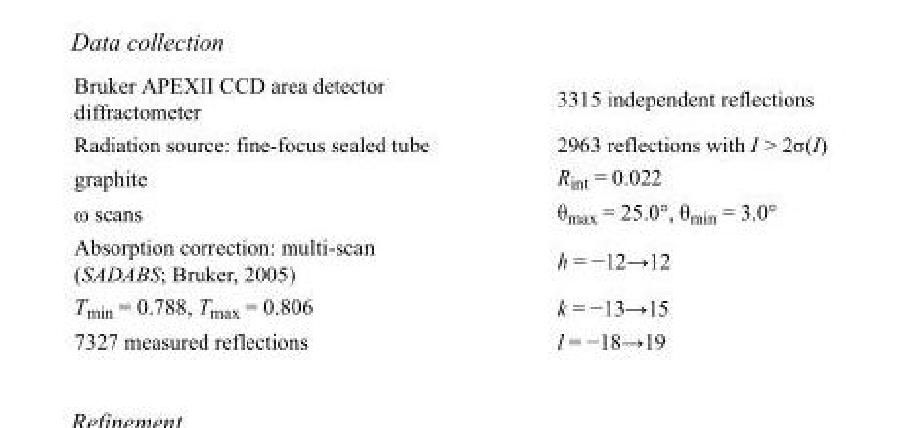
<table><tbody><tr><td>Bruker APEXII CCD area detector diffractometer</td><td>3315 independent reflections</td></tr><tr><td>Radiation source: fine-focus sealed tube</td><td>2963 reflections with I &gt; 2σ(I)</td></tr><tr><td>graphite</td><td>R<sub>int</sub> = 0.022</td></tr><tr><td>ω scans</td><td>θ<sub>max</sub> = 25.0°, θ<sub>min</sub> = 3.0°</td></tr><tr><td>Absorption correction: multi-scan (SADABS; Bruker, 2005)</td><td>h = −12→12</td></tr><tr><td>T<sub>min</sub> = 0.788, T<sub>max</sub> = 0.806</td><td>k = −13→15</td></tr><tr><td>7327 measured reflections</td><td>l = −18→19</td></tr></tbody></table>